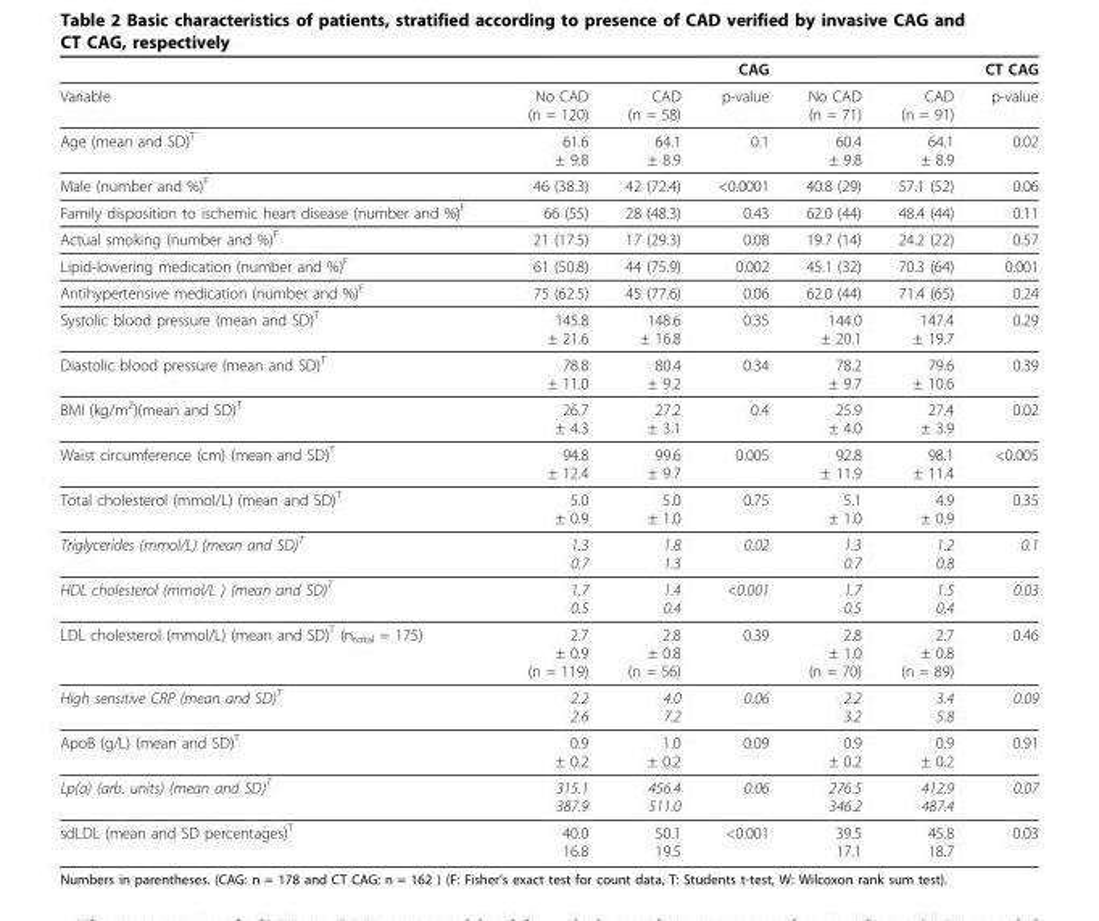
<table><thead><tr><td rowspan="2">Variable</td><td colspan="3">CAG</td><td colspan="3">CT CAG</td></tr><tr><td>No CAD (n = 120)</td><td>CAD (n = 58)</td><td>p-value</td><td>No CAD (n = 71)</td><td>CAD (n = 91)</td><td>p-value</td></tr></thead><tbody><tr><td>Age (mean and SD)<sup>T</sup></td><td>61.6 ± 9.8</td><td>64.1 ± 8.9</td><td>0.1</td><td>60.4 ± 9.8</td><td>64.1 ± 8.9</td><td>0.02</td></tr><tr><td>Male (number and %)<sup>F</sup></td><td>46 (38.3)</td><td>42 (72.4)</td><td>&lt;0.0001</td><td>40.8 (29)</td><td>57.1 (52)</td><td>0.06</td></tr><tr><td>Family disposition to ischemic heart disease (number and %)<sup>F</sup></td><td>66 (55)</td><td>28 (48.3)</td><td>0.43</td><td>62.0 (44)</td><td>48.4 (44)</td><td>0.11</td></tr><tr><td>Actual smoking (number and %)<sup>F</sup></td><td>21 (17.5)</td><td>17 (29.3)</td><td>0.08</td><td>19.7 (14)</td><td>24.2 (22)</td><td>0.57</td></tr><tr><td>Lipid-lowering medication (number and %)<sup>F</sup></td><td>61 (50.8)</td><td>44 (75.9)</td><td>0.002</td><td>45.1 (32)</td><td>70.3 (64)</td><td>0.001</td></tr><tr><td>Antihypertensive medication (number and %)<sup>F</sup></td><td>75 (62.5)</td><td>45 (77.6)</td><td>0.06</td><td>62.0 (44)</td><td>71.4 (65)</td><td>0.24</td></tr><tr><td>Systolic blood pressure (mean and SD)<sup>T</sup></td><td>145.8 ± 21.6</td><td>148.6 ± 16.8</td><td>0.35</td><td>144.0 ± 20.1</td><td>147.4 ± 19.7</td><td>0.29</td></tr><tr><td>Diastolic blood pressure (mean and SD)<sup>T</sup></td><td>78.8 ± 11.0</td><td>80.4 ± 9.2</td><td>0.34</td><td>78.2 ± 9.7</td><td>79.6 ± 10.6</td><td>0.39</td></tr><tr><td>BMI (kg/m<sup>2</sup>)(mean and SD)<sup>T</sup></td><td>26.7 ± 4.3</td><td>27.2 ± 3.1</td><td>0.4</td><td>25.9 ± 4.0</td><td>27.4 ± 3.9</td><td>0.02</td></tr><tr><td>Waist circumference (cm) (mean and SD)<sup>T</sup></td><td>94.8 ± 12.4</td><td>99.6 ± 9.7</td><td>0.005</td><td>92.8 ± 11.9</td><td>98.1 ± 11.4</td><td>&lt;0.005</td></tr><tr><td>Total cholesterol (mmol/L) (mean and SD)<sup>T</sup></td><td>5.0 ± 0.9</td><td>5.0 ± 1.0</td><td>0.75</td><td>5.1 ± 1.0</td><td>4.9 ± 0.9</td><td>0.35</td></tr><tr><td>Triglycerides (mmol/L) (mean and SD)<sup>T</sup></td><td>1.3 0.7</td><td>1.8 1.3</td><td>0.02</td><td>1.3 0.7</td><td>1.2 0.8</td><td>0.1</td></tr><tr><td>HDL cholesterol (mmol/L ) (mean and SD)<sup>T</sup></td><td>1.7 0.5</td><td>1.4 0.4</td><td>&lt;0.001</td><td>1.7 0.5</td><td>1.5 0.4</td><td>0.03</td></tr><tr><td>LDL cholesterol (mmol/L) (mean and SD)<sup>T</sup> (n<sub>total</sub> = 175)</td><td>2.7 ± 0.9 (n = 119)</td><td>2.8 ± 0.8 (n = 56)</td><td>0.39</td><td>2.8 ± 1.0 (n = 70)</td><td>2.7 ± 0.8 (n = 89)</td><td>0.46</td></tr><tr><td>High sensitive CRP (mean and SD)<sup>T</sup></td><td>2.2 2.6</td><td>4.0 7.2</td><td>0.06</td><td>2.2 3.2</td><td>3.4 5.8</td><td>0.09</td></tr><tr><td>ApoB (g/L) (mean and SD)<sup>T</sup></td><td>0.9 ± 0.2</td><td>1.0 ± 0.2</td><td>0.09</td><td>0.9 ± 0.2</td><td>0.9 ± 0.2</td><td>0.91</td></tr><tr><td>Lp(a) (arb. units) (mean and SD)<sup>T</sup></td><td>315.1 387.9</td><td>456.4 511.0</td><td>0.06</td><td>276.5 346.2</td><td>412.9 487.4</td><td>0.07</td></tr><tr><td>sdLDL (mean and SD percentages)<sup>T</sup></td><td>40.0 16.8</td><td>50.1 19.5</td><td>&lt;0.001</td><td>39.5 17.1</td><td>45.8 18.7</td><td>0.03</td></tr></tbody></table>